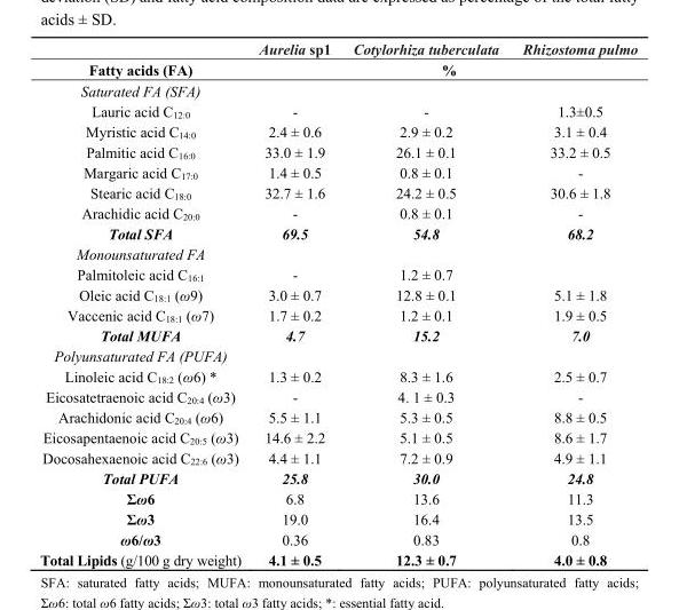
<table><thead><tr><td rowspan="2">Fatty acids (FA)</td><td>Aurelia sp1</td><td>Cotylorhiza tuberculata</td><td>Rhizostoma pulmo</td></tr><tr><td colspan="3">%</td></tr></thead><tbody><tr><td colspan="4">Saturated FA (SFA)</td></tr><tr><td>Lauric acid C<sub>12:0</sub></td><td>-</td><td>-</td><td>1.3±0.5</td></tr><tr><td>Myristic acid C<sub>14:0</sub></td><td>2.4 ± 0.6</td><td>2.9 ± 0.2</td><td>3.1 ± 0.4</td></tr><tr><td>Palmitic acid C<sub>16:0</sub></td><td>33.0 ± 1.9</td><td>26.1 ± 0.1</td><td>33.2 ± 0.5</td></tr><tr><td>Margaric acid C<sub>17:0</sub></td><td>1.4 ± 0.5</td><td>0.8 ± 0.1</td><td>-</td></tr><tr><td>Stearic acid C<sub>18:0</sub></td><td>32.7 ± 1.6</td><td>24.2 ± 0.5</td><td>30.6 ± 1.8</td></tr><tr><td>Arachidic acid C<sub>20:0</sub></td><td>-</td><td>0.8 ± 0.1</td><td>-</td></tr><tr><td>Total SFA</td><td>69.5</td><td>54.8</td><td>68.2</td></tr><tr><td colspan="4">Monounsaturated FA</td></tr><tr><td>Palmitoleic acid C<sub>16:1</sub></td><td>-</td><td>1.2 ± 0.7</td><td></td></tr><tr><td>Oleic acid C<sub>18:1</sub> (ω9)</td><td>3.0 ± 0.7</td><td>12.8 ± 0.1</td><td>5.1 ± 1.8</td></tr><tr><td>Vaccenic acid C<sub>18:1</sub> (ω7)</td><td>1.7 ± 0.2</td><td>1.2 ± 0.1</td><td>1.9 ± 0.5</td></tr><tr><td>Total MUFA</td><td>4.7</td><td>15.2</td><td>7.0</td></tr><tr><td colspan="4">Polyunsaturated FA (PUFA)</td></tr><tr><td>Linoleic acid C<sub>18:2</sub> (ω6) *</td><td>1.3 ± 0.2</td><td>8.3 ± 1.6</td><td>2.5 ± 0.7</td></tr><tr><td>Eicosatetraenoic acid C<sub>20:4</sub> (ω3)</td><td>-</td><td>4. 1 ± 0.3</td><td>-</td></tr><tr><td>Arachidonic acid C<sub>20:4</sub> (ω6)</td><td>5.5 ± 1.1</td><td>5.3 ± 0.5</td><td>8.8 ± 0.5</td></tr><tr><td>Eicosapentaenoic acid C<sub>20:5</sub> (ω3)</td><td>14.6 ± 2.2</td><td>5.1 ± 0.5</td><td>8.6 ± 1.7</td></tr><tr><td>Docosahexaenoic acid C<sub>22:6</sub> (ω3)</td><td>4.4 ± 1.1</td><td>7.2 ± 0.9</td><td>4.9 ± 1.1</td></tr><tr><td>Total PUFA</td><td>25.8</td><td>30.0</td><td>24.8</td></tr><tr><td>Σω6</td><td>6.8</td><td>13.6</td><td>11.3</td></tr><tr><td>Σω3</td><td>19.0</td><td>16.4</td><td>13.5</td></tr><tr><td>ω6/ω3</td><td>0.36</td><td>0.83</td><td>0.8</td></tr><tr><td>Total Lipids (g/100 g dry weight)</td><td>4.1 ± 0.5</td><td>12.3 ± 0.7</td><td>4.0 ± 0.8</td></tr></tbody></table>